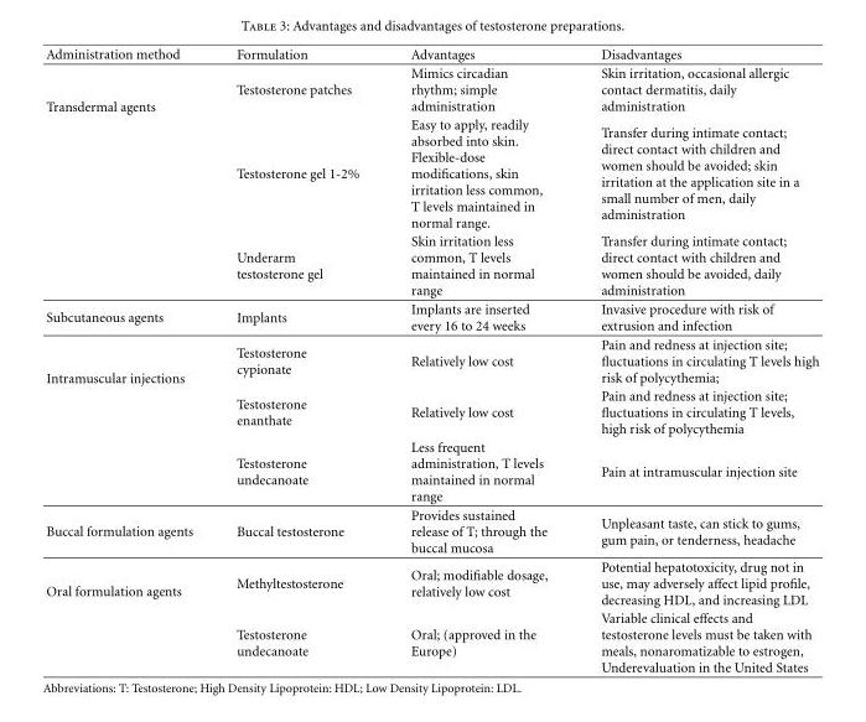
<table><thead><tr><td>Administration method</td><td>Formulation</td><td>Advantages</td><td>Disadvantages</td></tr></thead><tbody><tr><td rowspan="3">Transdermal agents</td><td>Testosterone patches</td><td>Mimics circadian rhythm; simple administration</td><td>Skin irritation, occasional allergic contact dermatitis, daily administration</td></tr><tr><td>Testosterone gel 1-2%</td><td>Easy to apply, readily absorbed into skin. Flexible-dose modifications, skin irritation less common, T levels maintained in normal range.</td><td>Transfer during intimate contact; direct contact with children and women should be avoided; skin irritation at the application site in a small number of men, daily administration</td></tr><tr><td>Underarm testosterone gel</td><td>Skin irritation less common, T levels maintained in normal range</td><td>Transfer during intimate contact; direct contact with children and women should be avoided, daily administration</td></tr><tr><td>Subcutaneous agents</td><td>Implants</td><td>Implants are inserted every 16 to 24 weeks</td><td>Invasive procedure with risk of extrusion and infection</td></tr><tr><td rowspan="3">Intramuscular injections</td><td>Testosterone cypionate</td><td>Relatively low cost</td><td>Pain and redness at injection site; fluctuations in circulating T levels high risk of polycythemia;</td></tr><tr><td>Testosterone enanthate</td><td>Relatively low cost</td><td>Pain and redness at injection site; fluctuations in circulating T levels, high risk of polycythemia</td></tr><tr><td>Testosterone undecanoate</td><td>Less frequent administration, T levels maintained in normal range</td><td>Pain at intramuscular injection site</td></tr><tr><td>Buccal formulation agents</td><td>Buccal testosterone</td><td>Provides sustained release of T; through the buccal mucosa</td><td>Unpleasant taste, can stick to gums, gum pain, or tenderness, headache</td></tr><tr><td rowspan="2">Oral formulation agents</td><td>Methyltestosterone</td><td>Oral; modifiable dosage, relatively low cost</td><td>Potential hepatotoxicity, drug not in use, may adversely affect lipid profile, decreasing HDL, and increasing LDL</td></tr><tr><td>Testosterone undecanoate</td><td>Oral; (approved in the Europe)</td><td>Variable clinical effects and testosterone levels must be taken with meals, nonaromatizable to estrogen, Underevaluation in the United States</td></tr></tbody></table>